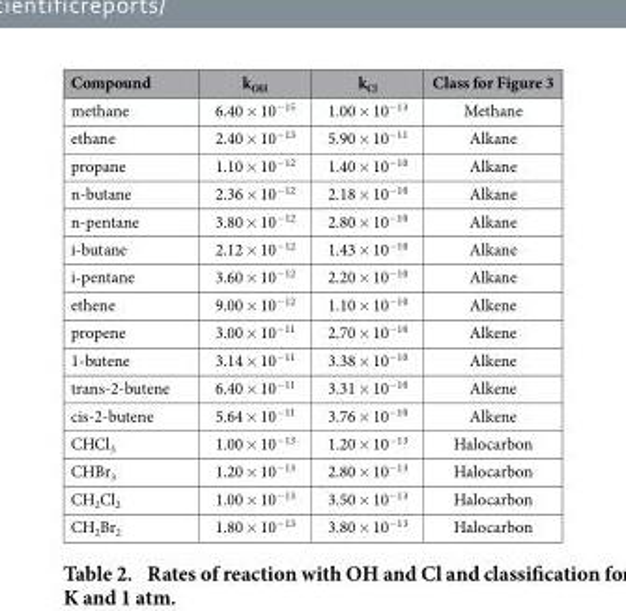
<table><thead><tr><td>Compound</td><td>k<sub>OH</sub></td><td>k<sub>Cl</sub></td><td>Class for Figure 3</td></tr></thead><tbody><tr><td>methane</td><td>6.40 × 10<sup>−15</sup></td><td>1.00 × 10<sup>−13</sup></td><td>Methane</td></tr><tr><td>ethane</td><td>2.40 × 10<sup>−13</sup></td><td>5.90 × 10<sup>−11</sup></td><td>Alkane</td></tr><tr><td>propane</td><td>1.10 × 10<sup>−12</sup></td><td>1.40 × 10<sup>−10</sup></td><td>Alkane</td></tr><tr><td>n-butane</td><td>2.36 × 10<sup>−12</sup></td><td>2.18 × 10<sup>−10</sup></td><td>Alkane</td></tr><tr><td>n-pentane</td><td>3.80 × 10<sup>−12</sup></td><td>2.80 × 10<sup>−10</sup></td><td>Alkane</td></tr><tr><td>i-butane</td><td>2.12 × 10<sup>−12</sup></td><td>1.43 × 10<sup>−10</sup></td><td>Alkane</td></tr><tr><td>i-pentane</td><td>3.60 × 10<sup>−12</sup></td><td>2.20 × 10<sup>−10</sup></td><td>Alkane</td></tr><tr><td>ethene</td><td>9.00 × 10<sup>−12</sup></td><td>1.10 × 10<sup>−10</sup></td><td>Alkene</td></tr><tr><td>propene</td><td>3.00 × 10<sup>−11</sup></td><td>2.70 × 10<sup>−10</sup></td><td>Alkene</td></tr><tr><td>1-butene</td><td>3.14 × 10<sup>−11</sup></td><td>3.38 × 10<sup>−10</sup></td><td>Alkene</td></tr><tr><td>trans-2-butene</td><td>6.40 × 10<sup>−11</sup></td><td>3.31 × 10<sup>−10</sup></td><td>Alkene</td></tr><tr><td>cis-2-butene</td><td>5.64 × 10<sup>−11</sup></td><td>3.76 × 10<sup>−10</sup></td><td>Alkene</td></tr><tr><td>CHCl<sub>3</sub></td><td>1.00 × 10<sup>−13</sup></td><td>1.20 × 10<sup>−13</sup></td><td>Halocarbon</td></tr><tr><td>CHBr<sub>3</sub></td><td>1.20 × 10<sup>−13</sup></td><td>2.80 × 10<sup>−13</sup></td><td>Halocarbon</td></tr><tr><td>CH<sub>2</sub>Cl<sub>2</sub></td><td>1.00 × 10<sup>−13</sup></td><td>3.50 × 10<sup>−13</sup></td><td>Halocarbon</td></tr><tr><td>CH<sub>2</sub>Br<sub>2</sub></td><td>1.80 × 10<sup>−13</sup></td><td>3.80 × 10<sup>−13</sup></td><td>Halocarbon</td></tr></tbody></table>